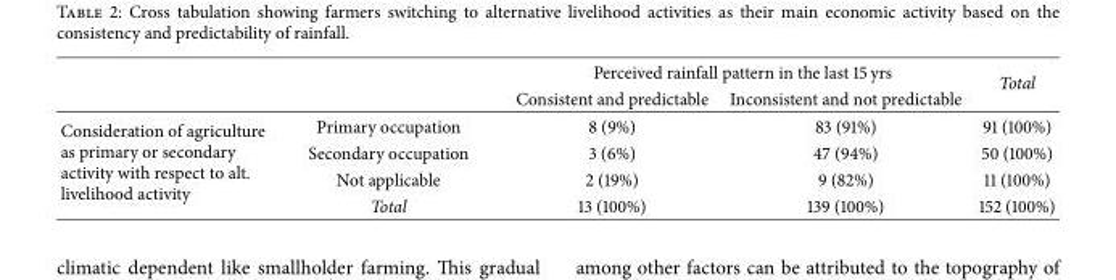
<table><thead><tr><td rowspan="2"></td><td rowspan="2"></td><td colspan="2">Perceived rainfall pattern in the last 15 yrs</td><td rowspan="2">Total</td></tr><tr><td>Consistent and predictable</td><td>Inconsistent and not predictable</td></tr></thead><tbody><tr><td rowspan="4">Consideration of agriculture as primary or secondary activity with respect to alt. livelihood activity</td><td>Primary occupation</td><td>8 (9%)</td><td>83 (91%)</td><td>91 (100%)</td></tr><tr><td>Secondary occupation</td><td>3 (6%)</td><td>47 (94%)</td><td>50 (100%)</td></tr><tr><td>Not applicable</td><td>2 (19%)</td><td>9 (82%)</td><td>11 (100%)</td></tr><tr><td>Total</td><td>13 (100%)</td><td>139 (100%)</td><td>152 (100%)</td></tr></tbody></table>